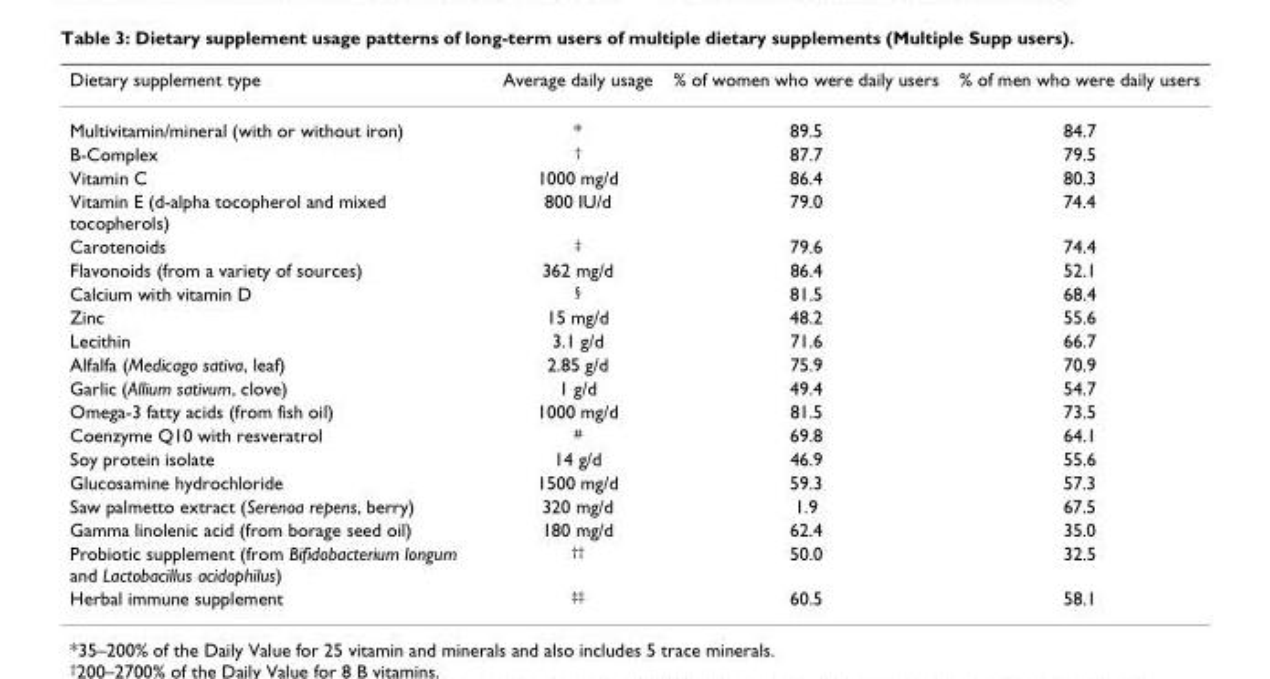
<table><thead><tr><td>Dietary supplement type</td><td>Average daily usage</td><td>% of women who were daily users</td><td>% of men who were daily users</td></tr></thead><tbody><tr><td>Multivitamin/mineral (with or without iron)</td><td>*</td><td>89.5</td><td>84.7</td></tr><tr><td>B-Complex</td><td><sup>†</sup></td><td>87.7</td><td>79.5</td></tr><tr><td>Vitamin C</td><td>1000 mg/d</td><td>86.4</td><td>80.3</td></tr><tr><td>Vitamin E (d-alpha tocopherol and mixed tocopherols)</td><td>800 IU/d</td><td>79.0</td><td>74.4</td></tr><tr><td>Carotenoids</td><td><sup>‡</sup></td><td>79.6</td><td>74.4</td></tr><tr><td>Flavonoids (from a variety of sources)</td><td>362 mg/d</td><td>86.4</td><td>52.1</td></tr><tr><td>Calcium with vitamin D</td><td><sup>§</sup></td><td>81.5</td><td>68.4</td></tr><tr><td>Zinc</td><td>15 mg/d</td><td>48.2</td><td>55.6</td></tr><tr><td>Lecithin</td><td>3.1 g/d</td><td>71.6</td><td>66.7</td></tr><tr><td>Alfalfa (Medicago sativa, leaf)</td><td>2.85 g/d</td><td>75.9</td><td>70.9</td></tr><tr><td>Garlic (Allium sativum, clove)</td><td>1 g/d</td><td>49.4</td><td>54.7</td></tr><tr><td>Omega-3 fatty acids (from fish oil)</td><td>1000 mg/d</td><td>81.5</td><td>73.5</td></tr><tr><td>Coenzyme Q10 with resveratrol</td><td><sup>#</sup></td><td>69.8</td><td>64.1</td></tr><tr><td>Soy protein isolate</td><td>14 g/d</td><td>46.9</td><td>55.6</td></tr><tr><td>Glucosamine hydrochloride</td><td>1500 mg/d</td><td>59.3</td><td>57.3</td></tr><tr><td>Saw palmetto extract (Serenoa repens, berry)</td><td>320 mg/d</td><td>1.9</td><td>67.5</td></tr><tr><td>Gamma linolenic acid (from borage seed oil)</td><td>180 mg/d</td><td>62.4</td><td>35.0</td></tr><tr><td>Probiotic supplement (from Bifidobacterium longum and Lactobacillus acidophilus)</td><td><sup>††</sup></td><td>50.0</td><td>32.5</td></tr><tr><td>Herbal immune supplement</td><td><sup>‡‡</sup></td><td>60.5</td><td>58.1</td></tr></tbody></table>